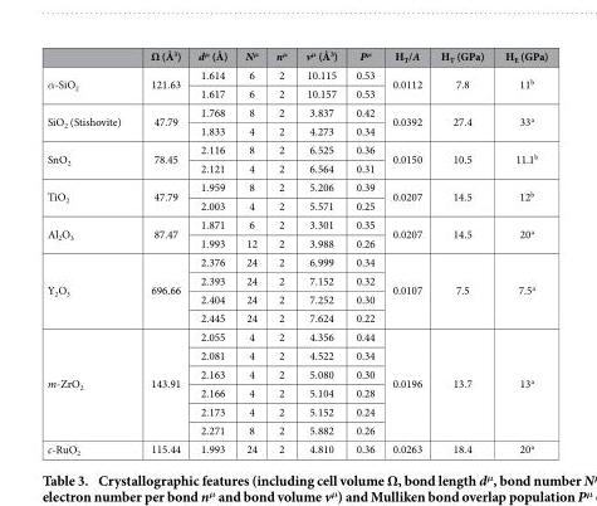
<table><thead><tr><td></td><td>Ω (Å<sup>3</sup>)</td><td>d<sup>μ</sup> (Å)</td><td>N<sup>μ</sup></td><td>n<sup>μ</sup></td><td>v<sup>μ</sup> (Å<sup>3</sup>)</td><td>P<sup>μ</sup></td><td>H<sub>T</sub>/A</td><td>H<sub>T</sub> (GPa)</td><td>H<sub>E</sub> (GPa)</td></tr></thead><tbody><tr><td rowspan="2">α-SiO<sub>2</sub></td><td rowspan="2">121.63</td><td>1.614</td><td>6</td><td>2</td><td>10.115</td><td>0.53</td><td rowspan="2">0.0112</td><td rowspan="2">7.8</td><td rowspan="2">11<sup>b</sup></td></tr><tr><td>1.617</td><td>6</td><td>2</td><td>10.157</td><td>0.53</td></tr><tr><td rowspan="2">SiO<sub>2</sub> (Stishovite)</td><td rowspan="2">47.79</td><td>1.768</td><td>8</td><td>2</td><td>3.837</td><td>0.42</td><td rowspan="2">0.0392</td><td rowspan="2">27.4</td><td rowspan="2">33<sup>a</sup></td></tr><tr><td>1.833</td><td>4</td><td>2</td><td>4.273</td><td>0.34</td></tr><tr><td rowspan="2">SnO<sub>2</sub></td><td rowspan="2">78.45</td><td>2.116</td><td>8</td><td>2</td><td>6.525</td><td>0.36</td><td rowspan="2">0.0150</td><td rowspan="2">10.5</td><td rowspan="2">11.1<sup>b</sup></td></tr><tr><td>2.121</td><td>4</td><td>2</td><td>6.564</td><td>0.31</td></tr><tr><td rowspan="2">TiO<sub>2</sub></td><td rowspan="2">47.79</td><td>1.959</td><td>8</td><td>2</td><td>5.206</td><td>0.39</td><td rowspan="2">0.0207</td><td rowspan="2">14.5</td><td rowspan="2">12<sup>b</sup></td></tr><tr><td>2.003</td><td>4</td><td>2</td><td>5.571</td><td>0.25</td></tr><tr><td rowspan="2">Al<sub>2</sub>O<sub>3</sub></td><td rowspan="2">87.47</td><td>1.871</td><td>6</td><td>2</td><td>3.301</td><td>0.35</td><td rowspan="2">0.0207</td><td rowspan="2">14.5</td><td rowspan="2">20<sup>a</sup></td></tr><tr><td>1.993</td><td>12</td><td>2</td><td>3.988</td><td>0.26</td></tr><tr><td rowspan="4">Y<sub>2</sub>O<sub>3</sub></td><td rowspan="4">696.66</td><td>2.376</td><td>24</td><td>2</td><td>6.999</td><td>0.34</td><td rowspan="4">0.0107</td><td rowspan="4">7.5</td><td rowspan="4">7.5<sup>a</sup></td></tr><tr><td>2.393</td><td>24</td><td>2</td><td>7.152</td><td>0.32</td></tr><tr><td>2.404</td><td>24</td><td>2</td><td>7.252</td><td>0.30</td></tr><tr><td>2.445</td><td>24</td><td>2</td><td>7.624</td><td>0.22</td></tr><tr><td rowspan="6">m-ZrO<sub>2</sub></td><td rowspan="6">143.91</td><td>2.055</td><td>4</td><td>2</td><td>4.356</td><td>0.44</td><td rowspan="6">0.0196</td><td rowspan="6">13.7</td><td rowspan="6">13<sup>a</sup></td></tr><tr><td>2.081</td><td>4</td><td>2</td><td>4.522</td><td>0.34</td></tr><tr><td>2.163</td><td>4</td><td>2</td><td>5.080</td><td>0.30</td></tr><tr><td>2.166</td><td>4</td><td>2</td><td>5.104</td><td>0.28</td></tr><tr><td>2.173</td><td>4</td><td>2</td><td>5.152</td><td>0.24</td></tr><tr><td>2.271</td><td>8</td><td>2</td><td>5.882</td><td>0.26</td></tr><tr><td>c-RuO<sub>2</sub></td><td>115.44</td><td>1.993</td><td>24</td><td>2</td><td>4.810</td><td>0.36</td><td>0.0263</td><td>18.4</td><td>20<sup>a</sup></td></tr></tbody></table>